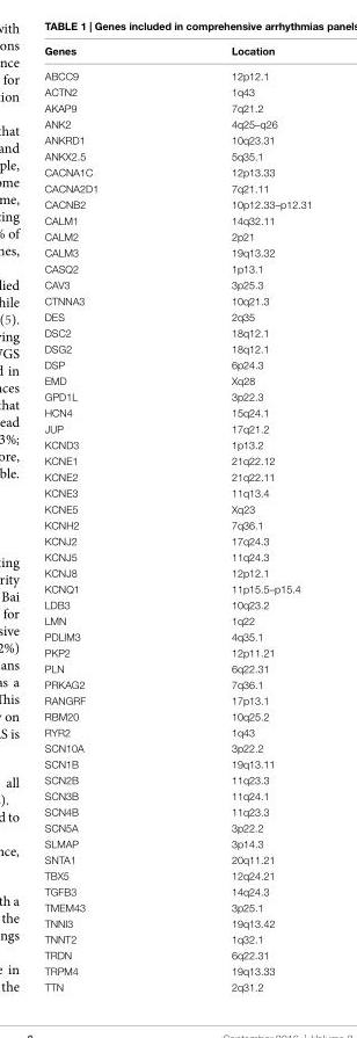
<table><thead><tr><td>Genes</td><td>Location</td></tr></thead><tbody><tr><td>ABCC9</td><td>12p12.1</td></tr><tr><td>ACTN2</td><td>1q43</td></tr><tr><td>AKAP9</td><td>7q21.2</td></tr><tr><td>ANK2</td><td>4q25–q26</td></tr><tr><td>ANKRD1</td><td>10q23.31</td></tr><tr><td>ANKX2.5</td><td>5q35.1</td></tr><tr><td>CACNA1C</td><td>12p13.33</td></tr><tr><td>CACNA2D1</td><td>7q21.11</td></tr><tr><td>CACNB2</td><td>10p12.33–p12.31</td></tr><tr><td>CALM1</td><td>14q32.11</td></tr><tr><td>CALM2</td><td>2p21</td></tr><tr><td>CALM3</td><td>19q13.32</td></tr><tr><td>CASQ2</td><td>1p13.1</td></tr><tr><td>CAV3</td><td>3p25.3</td></tr><tr><td>CTNNA3</td><td>10q21.3</td></tr><tr><td>DES</td><td>2q35</td></tr><tr><td>DSC2</td><td>18q12.1</td></tr><tr><td>DSG2</td><td>18q12.1</td></tr><tr><td>DSP</td><td>6p24.3</td></tr><tr><td>EMD</td><td>Xq28</td></tr><tr><td>GPD1L</td><td>3p22.3</td></tr><tr><td>HCN4</td><td>15q24.1</td></tr><tr><td>JUP</td><td>17q21.2</td></tr><tr><td>KCND3</td><td>1p13.2</td></tr><tr><td>KCNE1</td><td>21q22.12</td></tr><tr><td>KCNE2</td><td>21q22.11</td></tr><tr><td>KCNE3</td><td>11q13.4</td></tr><tr><td>KCNE5</td><td>Xq23</td></tr><tr><td>KCNH2</td><td>7q36.1</td></tr><tr><td>KCNJ2</td><td>17q24.3</td></tr><tr><td>KCNJ5</td><td>11q24.3</td></tr><tr><td>KCNJ8</td><td>12p12.1</td></tr><tr><td>KCNQ1</td><td>11p15.5–p15.4</td></tr><tr><td>LDB3</td><td>10q23.2</td></tr><tr><td>LMN</td><td>1q22</td></tr><tr><td>PDLIM3</td><td>4q35.1</td></tr><tr><td>PKP2</td><td>12p11.21</td></tr><tr><td>PLN</td><td>6q22.31</td></tr><tr><td>PRKAG2</td><td>7q36.1</td></tr><tr><td>RANGRF</td><td>17p13.1</td></tr><tr><td>RBM20</td><td>10q25.2</td></tr><tr><td>RYR2</td><td>1q43</td></tr><tr><td>SCN10A</td><td>3p22.2</td></tr><tr><td>SCN1B</td><td>19q13.11</td></tr><tr><td>SCN2B</td><td>11q23.3</td></tr><tr><td>SCN3B</td><td>11q24.1</td></tr><tr><td>SCN4B</td><td>11q23.3</td></tr><tr><td>SCN5A</td><td>3p22.2</td></tr><tr><td>SLMAP</td><td>3p14.3</td></tr><tr><td>SNTA1</td><td>20q11.21</td></tr><tr><td>TBX5</td><td>12q24.21</td></tr><tr><td>TGFB3</td><td>14q24.3</td></tr><tr><td>TMEM43</td><td>3p25.1</td></tr><tr><td>TNNI3</td><td>19q13.42</td></tr><tr><td>TNNT2</td><td>1q32.1</td></tr><tr><td>TRDN</td><td>6q22.31</td></tr><tr><td>TRPM4</td><td>19q13.33</td></tr><tr><td>TTN</td><td>2q31.2</td></tr></tbody></table>